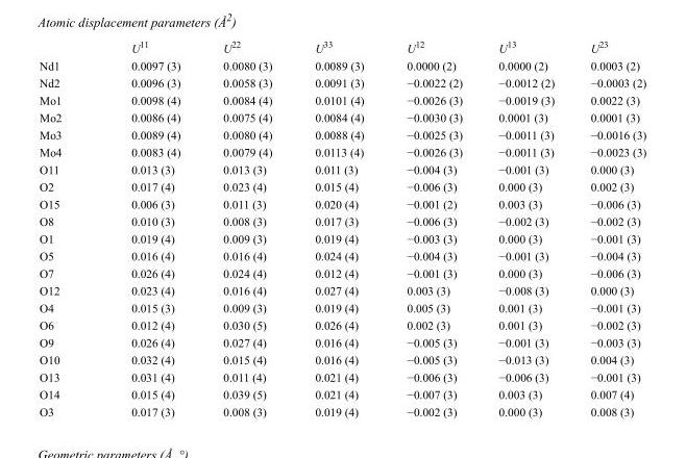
<table><thead><tr><td></td><td>U<sup>11</sup></td><td>U<sup>22</sup></td><td>U<sup>33</sup></td><td>U<sup>12</sup></td><td>U<sup>13</sup></td><td>U<sup>23</sup></td></tr></thead><tbody><tr><td>Nd1</td><td>0.0097 (3)</td><td>0.0080 (3)</td><td>0.0089 (3)</td><td>0.0000 (2)</td><td>0.0000 (2)</td><td>0.0003 (2)</td></tr><tr><td>Nd2</td><td>0.0096 (3)</td><td>0.0058 (3)</td><td>0.0091 (3)</td><td>−0.0022 (2)</td><td>−0.0012 (2)</td><td>−0.0003 (2)</td></tr><tr><td>Mo1</td><td>0.0098 (4)</td><td>0.0084 (4)</td><td>0.0101 (4)</td><td>−0.0026 (3)</td><td>−0.0019 (3)</td><td>0.0022 (3)</td></tr><tr><td>Mo2</td><td>0.0086 (4)</td><td>0.0075 (4)</td><td>0.0084 (4)</td><td>−0.0030 (3)</td><td>0.0001 (3)</td><td>0.0001 (3)</td></tr><tr><td>Mo3</td><td>0.0089 (4)</td><td>0.0080 (4)</td><td>0.0088 (4)</td><td>−0.0025 (3)</td><td>−0.0011 (3)</td><td>−0.0016 (3)</td></tr><tr><td>Mo4</td><td>0.0083 (4)</td><td>0.0079 (4)</td><td>0.0113 (4)</td><td>−0.0026 (3)</td><td>−0.0011 (3)</td><td>−0.0023 (3)</td></tr><tr><td>O11</td><td>0.013 (3)</td><td>0.013 (3)</td><td>0.011 (3)</td><td>−0.004 (3)</td><td>−0.001 (3)</td><td>0.000 (3)</td></tr><tr><td>O2</td><td>0.017 (4)</td><td>0.023 (4)</td><td>0.015 (4)</td><td>−0.006 (3)</td><td>0.000 (3)</td><td>0.002 (3)</td></tr><tr><td>O15</td><td>0.006 (3)</td><td>0.011 (3)</td><td>0.020 (4)</td><td>−0.001 (2)</td><td>0.003 (3)</td><td>−0.006 (3)</td></tr><tr><td>O8</td><td>0.010 (3)</td><td>0.008 (3)</td><td>0.017 (3)</td><td>−0.006 (3)</td><td>−0.002 (3)</td><td>−0.002 (3)</td></tr><tr><td>O1</td><td>0.019 (4)</td><td>0.009 (3)</td><td>0.019 (4)</td><td>−0.003 (3)</td><td>0.000 (3)</td><td>−0.001 (3)</td></tr><tr><td>O5</td><td>0.016 (4)</td><td>0.016 (4)</td><td>0.024 (4)</td><td>−0.004 (3)</td><td>−0.001 (3)</td><td>−0.004 (3)</td></tr><tr><td>O7</td><td>0.026 (4)</td><td>0.024 (4)</td><td>0.012 (4)</td><td>−0.001 (3)</td><td>0.000 (3)</td><td>−0.006 (3)</td></tr><tr><td>O12</td><td>0.023 (4)</td><td>0.016 (4)</td><td>0.027 (4)</td><td>0.003 (3)</td><td>−0.008 (3)</td><td>0.000 (3)</td></tr><tr><td>O4</td><td>0.015 (3)</td><td>0.009 (3)</td><td>0.019 (4)</td><td>0.005 (3)</td><td>0.001 (3)</td><td>−0.001 (3)</td></tr><tr><td>O6</td><td>0.012 (4)</td><td>0.030 (5)</td><td>0.026 (4)</td><td>0.002 (3)</td><td>0.001 (3)</td><td>−0.002 (3)</td></tr><tr><td>O9</td><td>0.026 (4)</td><td>0.027 (4)</td><td>0.016 (4)</td><td>−0.005 (3)</td><td>−0.001 (3)</td><td>−0.003 (3)</td></tr><tr><td>O10</td><td>0.032 (4)</td><td>0.015 (4)</td><td>0.016 (4)</td><td>−0.005 (3)</td><td>−0.013 (3)</td><td>0.004 (3)</td></tr><tr><td>O13</td><td>0.031 (4)</td><td>0.011 (4)</td><td>0.021 (4)</td><td>−0.006 (3)</td><td>−0.006 (3)</td><td>−0.001 (3)</td></tr><tr><td>O14</td><td>0.015 (4)</td><td>0.039 (5)</td><td>0.021 (4)</td><td>−0.007 (3)</td><td>0.003 (3)</td><td>0.007 (4)</td></tr><tr><td>O3</td><td>0.017 (3)</td><td>0.008 (3)</td><td>0.019 (4)</td><td>−0.002 (3)</td><td>0.000 (3)</td><td>0.008 (3)</td></tr></tbody></table>